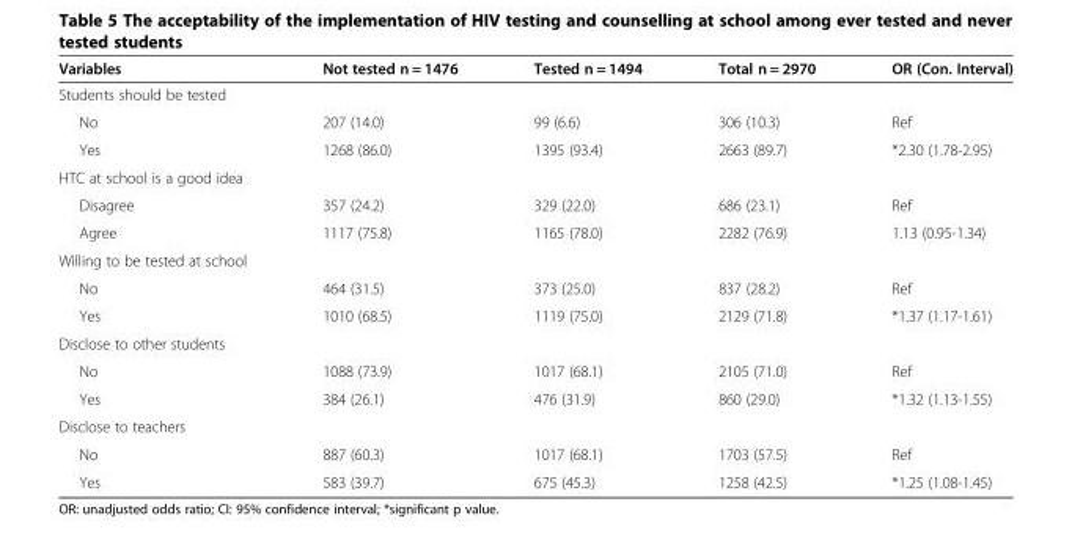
<table><thead><tr><td>Variables</td><td>Not tested n = 1476</td><td>Tested n = 1494</td><td>Total n = 2970</td><td>OR (Con. Interval)</td></tr></thead><tbody><tr><td colspan="5">Students should be tested</td></tr><tr><td>No</td><td>207 (14.0)</td><td>99 (6.6)</td><td>306 (10.3)</td><td>Ref</td></tr><tr><td>Yes</td><td>1268 (86.0)</td><td>1395 (93.4)</td><td>2663 (89.7)</td><td>*2.30 (1.78-2.95)</td></tr><tr><td colspan="5">HTC at school is a good idea</td></tr><tr><td>Disagree</td><td>357 (24.2)</td><td>329 (22.0)</td><td>686 (23.1)</td><td>Ref</td></tr><tr><td>Agree</td><td>1117 (75.8)</td><td>1165 (78.0)</td><td>2282 (76.9)</td><td>1.13 (0.95-1.34)</td></tr><tr><td colspan="5">Willing to be tested at school</td></tr><tr><td>No</td><td>464 (31.5)</td><td>373 (25.0)</td><td>837 (28.2)</td><td>Ref</td></tr><tr><td>Yes</td><td>1010 (68.5)</td><td>1119 (75.0)</td><td>2129 (71.8)</td><td>*1.37 (1.17-1.61)</td></tr><tr><td colspan="5">Disclose to other students</td></tr><tr><td>No</td><td>1088 (73.9)</td><td>1017 (68.1)</td><td>2105 (71.0)</td><td>Ref</td></tr><tr><td>Yes</td><td>384 (26.1)</td><td>476 (31.9)</td><td>860 (29.0)</td><td>*1.32 (1.13-1.55)</td></tr><tr><td colspan="5">Disclose to teachers</td></tr><tr><td>No</td><td>887 (60.3)</td><td>1017 (68.1)</td><td>1703 (57.5)</td><td>Ref</td></tr><tr><td>Yes</td><td>583 (39.7)</td><td>675 (45.3)</td><td>1258 (42.5)</td><td>*1.25 (1.08-1.45)</td></tr></tbody></table>